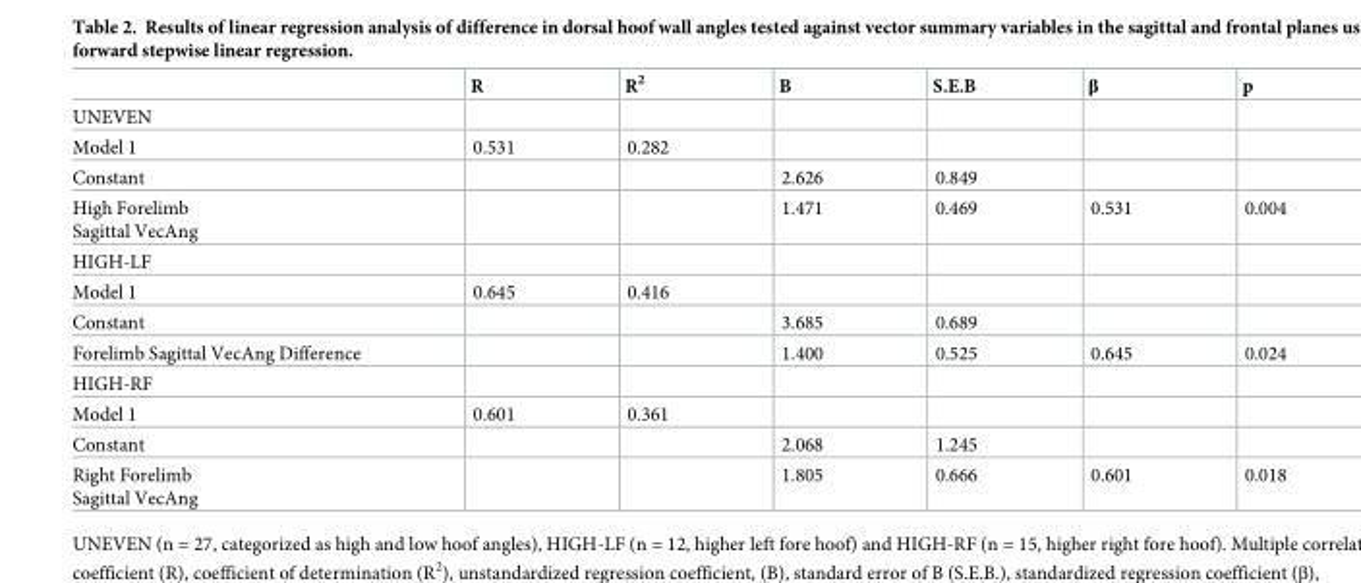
<table><thead><tr><td></td><td>R</td><td>R<sup>2</sup></td><td>B</td><td>S.E.B</td><td>β</td><td>p</td></tr></thead><tbody><tr><td colspan="7">UNEVEN</td></tr><tr><td>Model 1</td><td>0.531</td><td>0.282</td><td></td><td></td><td></td><td></td></tr><tr><td>Constant</td><td></td><td></td><td>2.626</td><td>0.849</td><td></td><td></td></tr><tr><td>High Forelimb Sagittal VecAng</td><td></td><td></td><td>1.471</td><td>0.469</td><td>0.531</td><td>0.004</td></tr><tr><td colspan="7">HIGH-LF</td></tr><tr><td>Model 1</td><td>0.645</td><td>0.416</td><td></td><td></td><td></td><td></td></tr><tr><td>Constant</td><td></td><td></td><td>3.685</td><td>0.689</td><td></td><td></td></tr><tr><td>Forelimb Sagittal VecAng Difference</td><td></td><td></td><td>1.400</td><td>0.525</td><td>0.645</td><td>0.024</td></tr><tr><td colspan="7">HIGH-RF</td></tr><tr><td>Model 1</td><td>0.601</td><td>0.361</td><td></td><td></td><td></td><td></td></tr><tr><td>Constant</td><td></td><td></td><td>2.068</td><td>1.245</td><td></td><td></td></tr><tr><td>Right Forelimb Sagittal VecAng</td><td></td><td></td><td>1.805</td><td>0.666</td><td>0.601</td><td>0.018</td></tr></tbody></table>